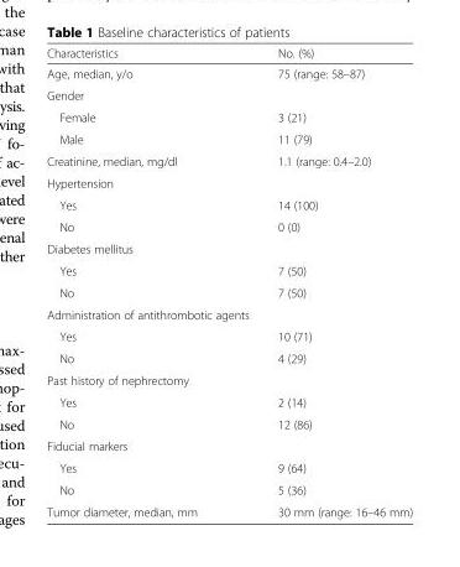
<table><thead><tr><td>Characteristics</td><td>No. (%)</td></tr></thead><tbody><tr><td>Age, median, y/o</td><td>75 (range: 58–87)</td></tr><tr><td colspan="2">Gender</td></tr><tr><td>Female</td><td>3 (21)</td></tr><tr><td>Male</td><td>11 (79)</td></tr><tr><td>Creatinine, median, mg/dl</td><td>1.1 (range: 0.4–2.0)</td></tr><tr><td colspan="2">Hypertension</td></tr><tr><td>Yes</td><td>14 (100)</td></tr><tr><td>No</td><td>0 (0)</td></tr><tr><td colspan="2">Diabetes mellitus</td></tr><tr><td>Yes</td><td>7 (50)</td></tr><tr><td>No</td><td>7 (50)</td></tr><tr><td colspan="2">Administration of antithrombotic agents</td></tr><tr><td>Yes</td><td>10 (71)</td></tr><tr><td>No</td><td>4 (29)</td></tr><tr><td colspan="2">Past history of nephrectomy</td></tr><tr><td>Yes</td><td>2 (14)</td></tr><tr><td>No</td><td>12 (86)</td></tr><tr><td colspan="2">Fiducial markers</td></tr><tr><td>Yes</td><td>9 (64)</td></tr><tr><td>No</td><td>5 (36)</td></tr><tr><td>Tumor diameter, median, mm</td><td>30 mm (range: 16–46 mm)</td></tr></tbody></table>